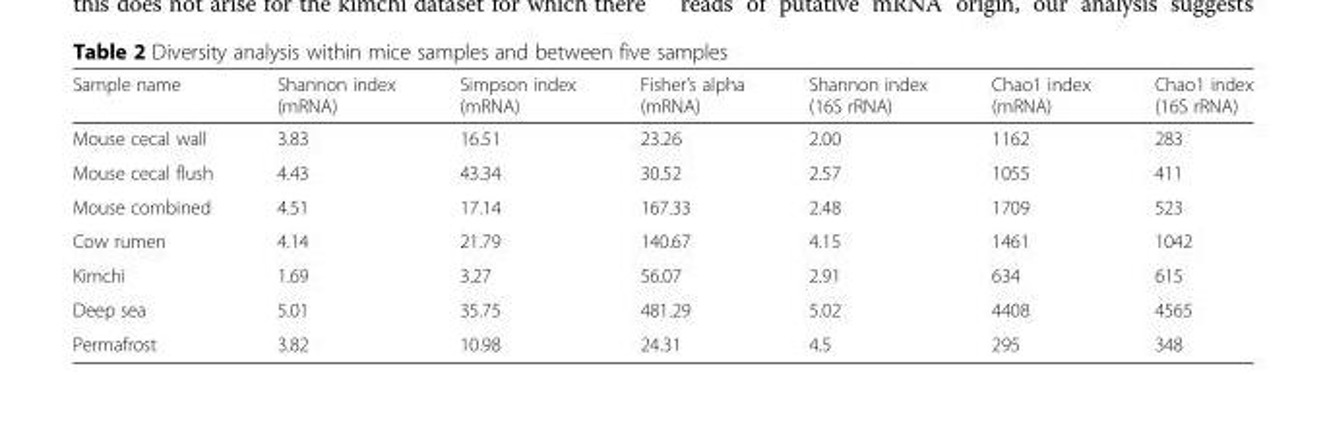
<table><thead><tr><td>Sample name</td><td>Shannon index (mRNA)</td><td>Simpson index (mRNA)</td><td>Fisher’s alpha (mRNA)</td><td>Shannon index (16S rRNA)</td><td>Chao1 index (mRNA)</td><td>Chao1 index (16S rRNA)</td></tr></thead><tbody><tr><td>Mouse cecal wall</td><td>3.83</td><td>16.51</td><td>23.26</td><td>2.00</td><td>1162</td><td>283</td></tr><tr><td>Mouse cecal flush</td><td>4.43</td><td>43.34</td><td>30.52</td><td>2.57</td><td>1055</td><td>411</td></tr><tr><td>Mouse combined</td><td>4.51</td><td>17.14</td><td>167.33</td><td>2.48</td><td>1709</td><td>523</td></tr><tr><td>Cow rumen</td><td>4.14</td><td>21.79</td><td>140.67</td><td>4.15</td><td>1461</td><td>1042</td></tr><tr><td>Kimchi</td><td>1.69</td><td>3.27</td><td>56.07</td><td>2.91</td><td>634</td><td>615</td></tr><tr><td>Deep sea</td><td>5.01</td><td>35.75</td><td>481.29</td><td>5.02</td><td>4408</td><td>4565</td></tr><tr><td>Permafrost</td><td>3.82</td><td>10.98</td><td>24.31</td><td>4.5</td><td>295</td><td>348</td></tr></tbody></table>